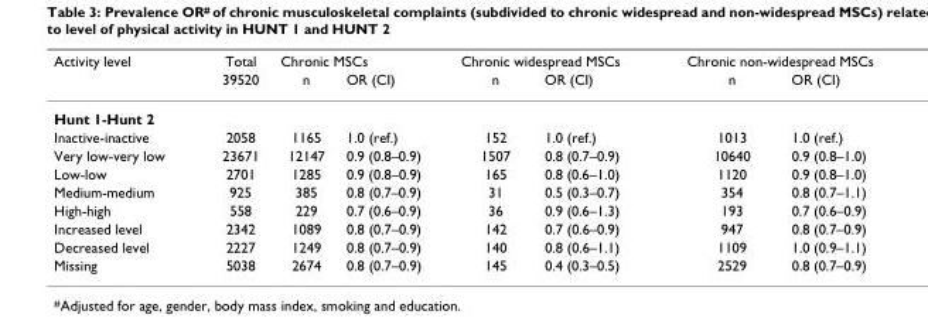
<table><thead><tr><td rowspan="2">Activity level</td><td rowspan="2">Total 39520</td><td colspan="2">Chronic MSCs</td><td colspan="2">Chronic widespread MSCs</td><td colspan="2">Chronic non-widespread MSCs</td></tr><tr><td>n</td><td>OR (CI)</td><td>n</td><td>OR (CI)</td><td>n</td><td>OR (CI)</td></tr></thead><tbody><tr><td colspan="8">Hunt 1-Hunt 2</td></tr><tr><td>Inactive-inactive</td><td>2058</td><td>1165</td><td>1.0 (ref.)</td><td>152</td><td>1.0 (ref.)</td><td>1013</td><td>1.0 (ref.)</td></tr><tr><td>Very low-very low</td><td>23671</td><td>12147</td><td>0.9 (0.8–0.9)</td><td>1507</td><td>0.8 (0.7–0.9)</td><td>10640</td><td>0.9 (0.8–1.0)</td></tr><tr><td>Low-low</td><td>2701</td><td>1285</td><td>0.9 (0.8–0.9)</td><td>165</td><td>0.8 (0.6–1.0)</td><td>1120</td><td>0.9 (0.8–1.0)</td></tr><tr><td>Medium-medium</td><td>925</td><td>385</td><td>0.8 (0.7–0.9)</td><td>31</td><td>0.5 (0.3–0.7)</td><td>354</td><td>0.8 (0.7–1.1)</td></tr><tr><td>High-high</td><td>558</td><td>229</td><td>0.7 (0.6–0.9)</td><td>36</td><td>0.9 (0.6–1.3)</td><td>193</td><td>0.7 (0.6–0.9)</td></tr><tr><td>Increased level</td><td>2342</td><td>1089</td><td>0.8 (0.7–0.9)</td><td>142</td><td>0.7 (0.6–0.9)</td><td>947</td><td>0.8 (0.7–0.9)</td></tr><tr><td>Decreased level</td><td>2227</td><td>1249</td><td>0.8 (0.7–0.9)</td><td>140</td><td>0.8 (0.6–1.1)</td><td>1109</td><td>1.0 (0.9–1.1)</td></tr><tr><td>Missing</td><td>5038</td><td>2674</td><td>0.8 (0.7–0.9)</td><td>145</td><td>0.4 (0.3–0.5)</td><td>2529</td><td>0.8 (0.7–0.9)</td></tr></tbody></table>